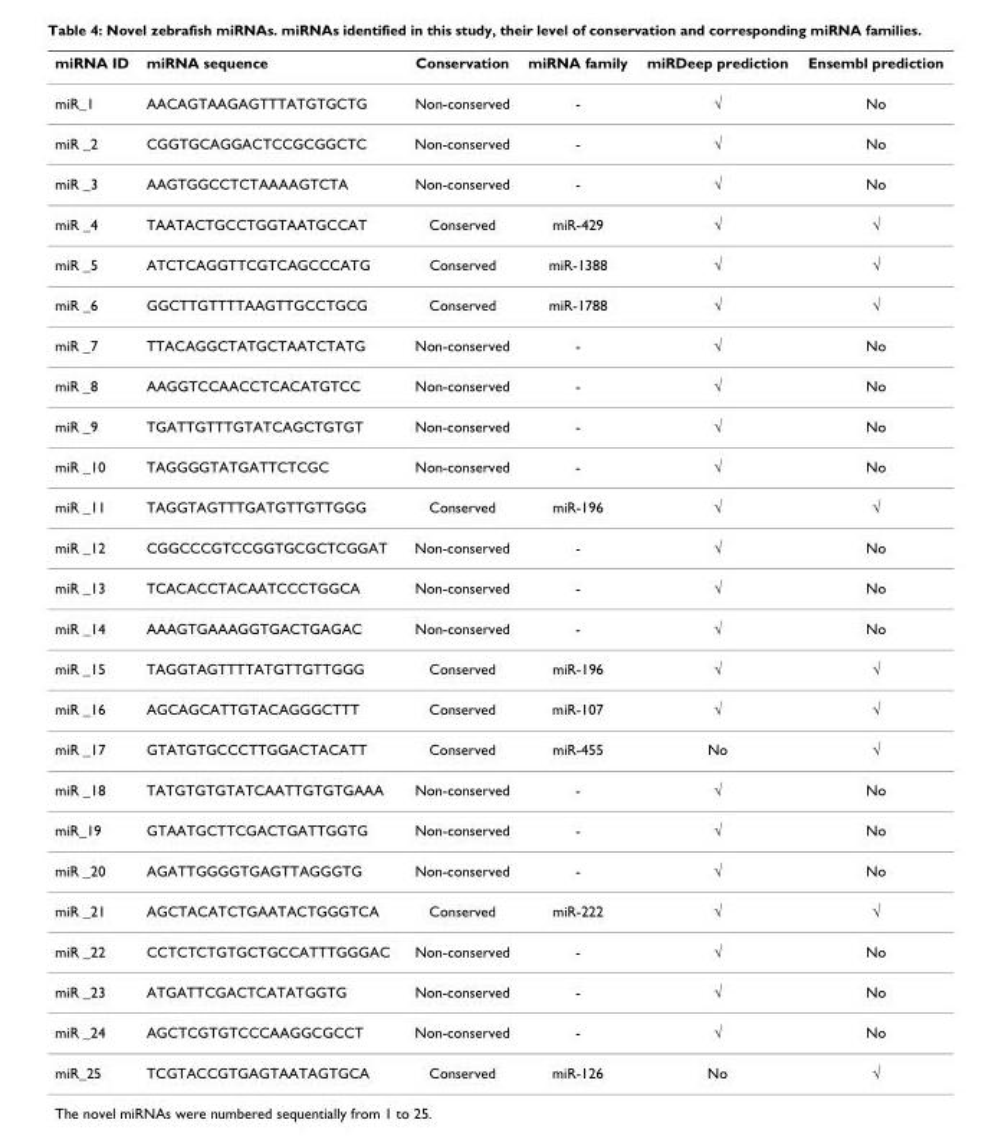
<table><thead><tr><td>miRNA ID</td><td>miRNA sequence</td><td>Conservation</td><td>miRNA family</td><td>miRDeep prediction</td><td>Ensembl prediction</td></tr></thead><tbody><tr><td>miR_1</td><td>AACAGTAAGAGTTTATGTGCTG</td><td>Non-conserved</td><td>-</td><td>√</td><td>No</td></tr><tr><td>miR _2</td><td>CGGTGCAGGACTCCGCGGCTC</td><td>Non-conserved</td><td>-</td><td>√</td><td>No</td></tr><tr><td>miR _3</td><td>AAGTGGCCTCTAAAAGTCTA</td><td>Non-conserved</td><td>-</td><td>√</td><td>No</td></tr><tr><td>miR _4</td><td>TAATACTGCCTGGTAATGCCAT</td><td>Conserved</td><td>miR-429</td><td>√</td><td>√</td></tr><tr><td>miR _5</td><td>ATCTCAGGTTCGTCAGCCCATG</td><td>Conserved</td><td>miR-1388</td><td>√</td><td>√</td></tr><tr><td>miR _6</td><td>GGCTTGTTTTAAGTTGCCTGCG</td><td>Conserved</td><td>miR-1788</td><td>√</td><td>√</td></tr><tr><td>miR _7</td><td>TTACAGGCTATGCTAATCTATG</td><td>Non-conserved</td><td>-</td><td>√</td><td>No</td></tr><tr><td>miR _8</td><td>AAGGTCCAACCTCACATGTCC</td><td>Non-conserved</td><td>-</td><td>√</td><td>No</td></tr><tr><td>miR _9</td><td>TGATTGTTTGTATCAGCTGTGT</td><td>Non-conserved</td><td>-</td><td>√</td><td>No</td></tr><tr><td>miR _10</td><td>TAGGGGTATGATTCTCGC</td><td>Non-conserved</td><td>-</td><td>√</td><td>No</td></tr><tr><td>miR _11</td><td>TAGGTAGTTTGATGTTGTTGGG</td><td>Conserved</td><td>miR-196</td><td>√</td><td>√</td></tr><tr><td>miR _12</td><td>CGGCCCGTCCGGTGCGCTCGGAT</td><td>Non-conserved</td><td>-</td><td>√</td><td>No</td></tr><tr><td>miR _13</td><td>TCACACCTACAATCCCTGGCA</td><td>Non-conserved</td><td>-</td><td>√</td><td>No</td></tr><tr><td>miR _14</td><td>AAAGTGAAAGGTGACTGAGAC</td><td>Non-conserved</td><td>-</td><td>√</td><td>No</td></tr><tr><td>miR _15</td><td>TAGGTAGTTTTATGTTGTTGGG</td><td>Conserved</td><td>miR-196</td><td>√</td><td>√</td></tr><tr><td>miR _16</td><td>AGCAGCATTGTACAGGGCTTT</td><td>Conserved</td><td>miR-107</td><td>√</td><td>√</td></tr><tr><td>miR _17</td><td>GTATGTGCCCTTGGACTACATT</td><td>Conserved</td><td>miR-455</td><td>No</td><td>√</td></tr><tr><td>miR _18</td><td>TATGTGTGTATCAATTGTGTGAAA</td><td>Non-conserved</td><td>-</td><td>√</td><td>No</td></tr><tr><td>miR_19</td><td>GTAATGCTTCGACTGATTGGTG</td><td>Non-conserved</td><td>-</td><td>√</td><td>No</td></tr><tr><td>miR _20</td><td>AGATTGGGGTGAGTTAGGGTG</td><td>Non-conserved</td><td>-</td><td>√</td><td>No</td></tr><tr><td>miR _21</td><td>AGCTACATCTGAATACTGGGTCA</td><td>Conserved</td><td>miR-222</td><td>√</td><td>√</td></tr><tr><td>miR _22</td><td>CCTCTCTGTGCTGCCATTTGGGAC</td><td>Non-conserved</td><td>-</td><td>√</td><td>No</td></tr><tr><td>miR _23</td><td>ATGATTCGACTCATATGGTG</td><td>Non-conserved</td><td>-</td><td>√</td><td>No</td></tr><tr><td>miR _24</td><td>AGCTCGTGTCCCAAGGCGCCT</td><td>Non-conserved</td><td>-</td><td>√</td><td>No</td></tr><tr><td>miR_25</td><td>TCGTACCGTGAGTAATAGTGCA</td><td>Conserved</td><td>miR-126</td><td>No</td><td>√</td></tr></tbody></table>